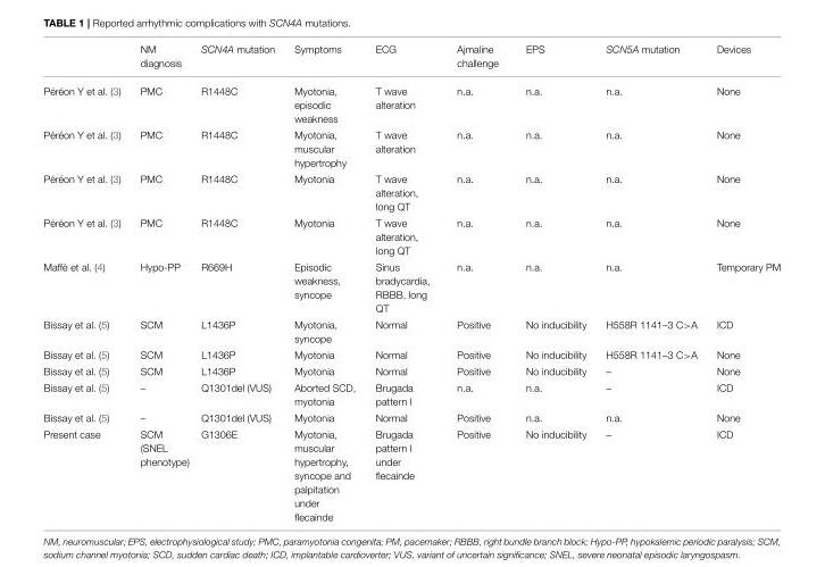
<table><thead><tr><td></td><td>NM diagnosis</td><td>SCN4A mutation</td><td>Symptoms</td><td>ECG</td><td>Ajmaline challenge</td><td>EPS</td><td>SCN5A mutation</td><td>Devices</td></tr></thead><tbody><tr><td>Péréon Y et al. (3)</td><td>PMC</td><td>R1448C</td><td>Myotonia, episodic weakness</td><td>T wave alteration</td><td>n.a.</td><td>n.a.</td><td>n.a.</td><td>None</td></tr><tr><td>Péréon Y et al. (3)</td><td>PMC</td><td>R1448C</td><td>Myotonia, muscular hypertrophy</td><td>T wave alteration</td><td>n.a.</td><td>n.a.</td><td>n.a.</td><td>None</td></tr><tr><td>Péréon Y et al. (3)</td><td>PMC</td><td>R1448C</td><td>Myotonia</td><td>T wave alteration, long QT</td><td>n.a.</td><td>n.a.</td><td>n.a.</td><td>None</td></tr><tr><td>Péréon Y et al. (3)</td><td>PMC</td><td>R1448C</td><td>Myotonia</td><td>T wave alteration, long QT</td><td>n.a.</td><td>n.a.</td><td>n.a.</td><td>None</td></tr><tr><td>Maffè et al. (4)</td><td>Hypo-PP</td><td>R669H</td><td>Episodic weakness, syncope</td><td>Sinus bradycardia, RBBB, long QT</td><td>n.a.</td><td>n.a.</td><td>n.a.</td><td>Temporary PM</td></tr><tr><td>Bissay et al. (5)</td><td>SCM</td><td>L1436P</td><td>Myotonia, syncope</td><td>Normal</td><td>Positive</td><td>No inducibility</td><td>H558R 1141–3 C&gt;A</td><td>ICD</td></tr><tr><td>Bissay et al. (5)</td><td>SCM</td><td>L1436P</td><td>Myotonia</td><td>Normal</td><td>Positive</td><td>No inducibility</td><td>H558R 1141–3 C&gt;A</td><td>None</td></tr><tr><td>Bissay et al. (5)</td><td>SCM</td><td>L1436P</td><td>Myotonia</td><td>Normal</td><td>Positive</td><td>No inducibility</td><td>–</td><td>None</td></tr><tr><td>Bissay et al. (5)</td><td>–</td><td>Q1301del (VUS)</td><td>Aborted SCD, myotonia</td><td>Brugada pattern I</td><td>n.a.</td><td>n.a.</td><td>–</td><td>ICD</td></tr><tr><td>Bissay et al. (5)</td><td>–</td><td>Q1301del (VUS)</td><td>Myotonia</td><td>Normal</td><td>Positive</td><td>n.a.</td><td>n.a.</td><td>None</td></tr><tr><td>Present case</td><td>SCM (SNEL phenotype)</td><td>G1306E</td><td>Myotonia, muscular hypertrophy, syncope and palpitation under flecainde</td><td>Brugada pattern I under flecainde</td><td>Positive</td><td>No inducibility</td><td>–</td><td>ICD</td></tr></tbody></table>